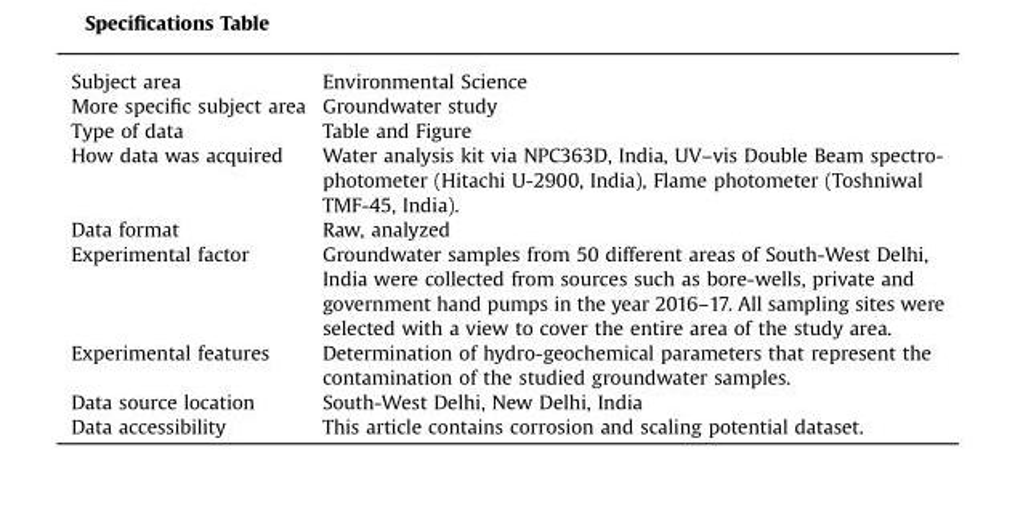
<table><tbody><tr><td>Subject area</td><td>Environmental Science</td></tr><tr><td>More specific subject area</td><td>Groundwater study</td></tr><tr><td>Type of data</td><td>Table and Figure</td></tr><tr><td>How data was acquired</td><td>Water analysis kit via NPC363D, India, UV–vis Double Beam spectro- photometer (Hitachi U-2900, India), Flame photometer (Toshniwal TMF-45, India).</td></tr><tr><td>Data format</td><td>Raw, analyzed</td></tr><tr><td>Experimental factor</td><td>Groundwater samples from 50 different areas of South-West Delhi, India were collected from sources such as bore-wells, private and government hand pumps in the year 2016–17. All sampling sites were selected with a view to cover the entire area of the study area.</td></tr><tr><td>Experimental features</td><td>Determination of hydro-geochemical parameters that represent the contamination of the studied groundwater samples.</td></tr><tr><td>Data source location</td><td>South-West Delhi, New Delhi, India</td></tr><tr><td>Data accessibility</td><td>This article contains corrosion and scaling potential dataset.</td></tr></tbody></table>